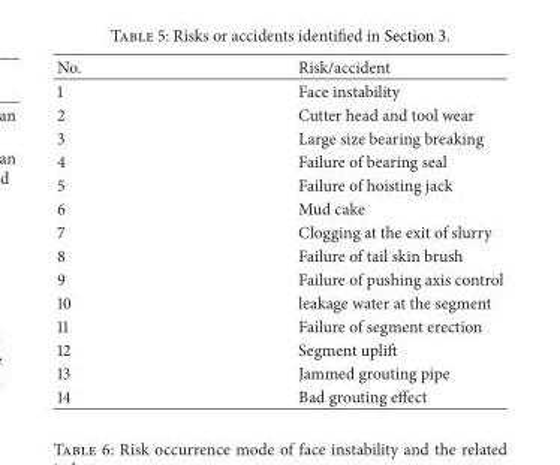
<table><thead><tr><td>No.</td><td>Risk/accident</td></tr></thead><tbody><tr><td>1</td><td>Face instability</td></tr><tr><td>2</td><td>Cutter head and tool wear</td></tr><tr><td>3</td><td>Large size bearing breaking</td></tr><tr><td>4</td><td>Failure of bearing seal</td></tr><tr><td>5</td><td>Failure of hoisting jack</td></tr><tr><td>6</td><td>Mud cake</td></tr><tr><td>7</td><td>Clogging at the exit of slurry</td></tr><tr><td>8</td><td>Failure of tail skin brush</td></tr><tr><td>9</td><td>Failure of pushing axis control</td></tr><tr><td>10</td><td>leakage water at the segment</td></tr><tr><td>11</td><td>Failure of segment erection</td></tr><tr><td>12</td><td>Segment uplift</td></tr><tr><td>13</td><td>Jammed grouting pipe</td></tr><tr><td>14</td><td>Bad grouting effect</td></tr></tbody></table>